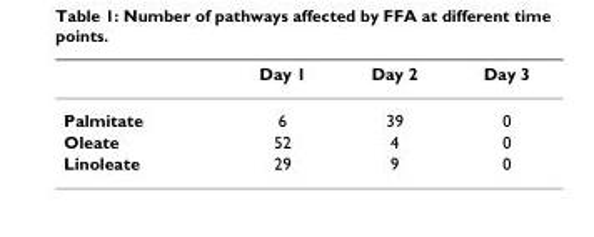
<table><thead><tr><td></td><td>Day 1</td><td>Day 2</td><td>Day 3</td></tr></thead><tbody><tr><td>Palmitate</td><td>6</td><td>39</td><td>0</td></tr><tr><td>Oleate</td><td>52</td><td>4</td><td>0</td></tr><tr><td>Linoleate</td><td>29</td><td>9</td><td>0</td></tr></tbody></table>